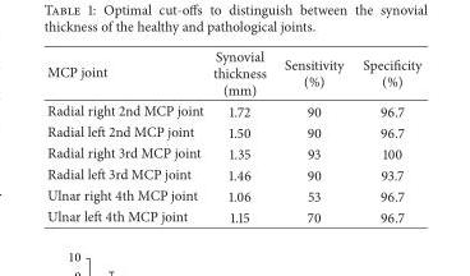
<table><thead><tr><td>MCP joint</td><td>Synovial thickness (mm)</td><td>Sensitivity (%)</td><td>Specificity (%)</td></tr></thead><tbody><tr><td>Radial right 2nd MCP joint</td><td>1.72</td><td>90</td><td>96.7</td></tr><tr><td>Radial left 2nd MCP joint</td><td>1.50</td><td>90</td><td>96.7</td></tr><tr><td>Radial right 3rd MCP joint</td><td>1.35</td><td>93</td><td>100</td></tr><tr><td>Radial left 3rd MCP joint</td><td>1.46</td><td>90</td><td>93.7</td></tr><tr><td>Ulnar right 4th MCP joint</td><td>1.06</td><td>53</td><td>96.7</td></tr><tr><td>Ulnar left 4th MCP joint</td><td>1.15</td><td>70</td><td>96.7</td></tr></tbody></table>